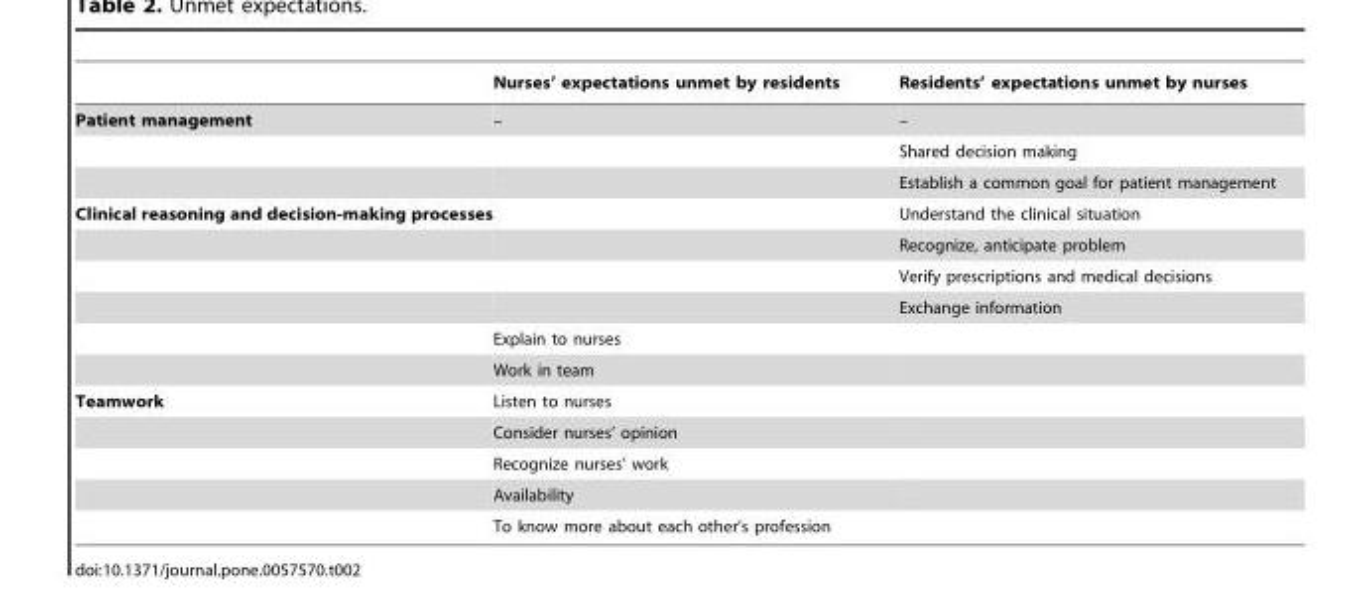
<table><thead><tr><td></td><td>Nurses’ expectations unmet by residents</td><td>Residents’ expectations unmet by nurses</td></tr></thead><tbody><tr><td rowspan="3">Patient management</td><td>–</td><td>–</td></tr><tr><td></td><td>Shared decision making</td></tr><tr><td></td><td>Establish a common goal for patient management</td></tr><tr><td rowspan="6">Clinical reasoning and decision-making processes</td><td></td><td>Understand the clinical situation</td></tr><tr><td></td><td>Recognize, anticipate problem</td></tr><tr><td></td><td>Verify prescriptions and medical decisions</td></tr><tr><td></td><td>Exchange information</td></tr><tr><td>Explain to nurses</td><td></td></tr><tr><td>Work in team</td><td></td></tr><tr><td rowspan="5">Teamwork</td><td>Listen to nurses</td><td></td></tr><tr><td>Consider nurses’ opinion</td><td></td></tr><tr><td>Recognize nurses’ work</td><td></td></tr><tr><td>Availability</td><td></td></tr><tr><td>To know more about each other’s profession</td><td></td></tr></tbody></table>